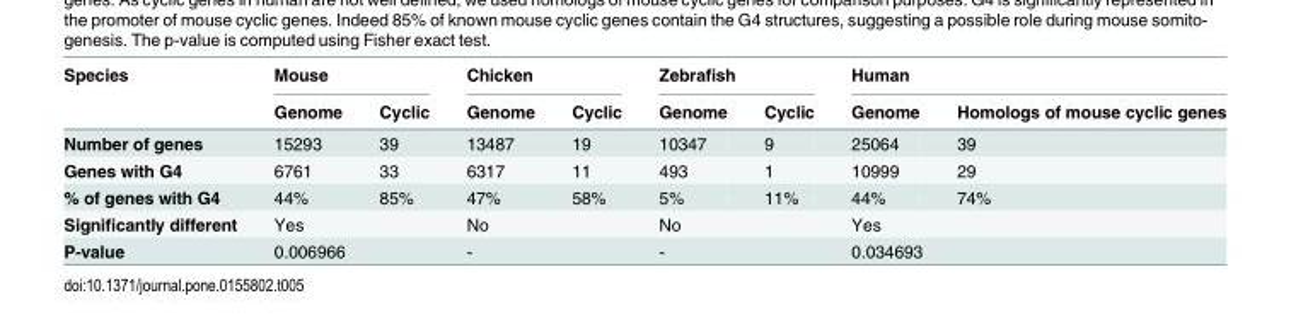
<table><thead><tr><td rowspan="2">Species</td><td colspan="2">Mouse</td><td colspan="2">Chicken</td><td colspan="2">Zebrafish</td><td colspan="2">Human</td></tr><tr><td>Genome</td><td>Cyclic</td><td>Genome</td><td>Cyclic</td><td>Genome</td><td>Cyclic</td><td>Genome</td><td>Homologs of mouse cyclic genes</td></tr></thead><tbody><tr><td>Number of genes</td><td>15293</td><td>39</td><td>13487</td><td>19</td><td>10347</td><td>9</td><td>25064</td><td>39</td></tr><tr><td>Genes with G4</td><td>6761</td><td>33</td><td>6317</td><td>11</td><td>493</td><td>1</td><td>10999</td><td>29</td></tr><tr><td>% of genes with G4</td><td>44%</td><td>85%</td><td>47%</td><td>58%</td><td>5%</td><td>11%</td><td>44%</td><td>74%</td></tr><tr><td>Significantly different</td><td colspan="2">Yes</td><td colspan="2">No</td><td colspan="2">No</td><td colspan="2">Yes</td></tr><tr><td>P-value</td><td colspan="2">0.006966</td><td colspan="2">-</td><td colspan="2">-</td><td colspan="2">0.034693</td></tr></tbody></table>